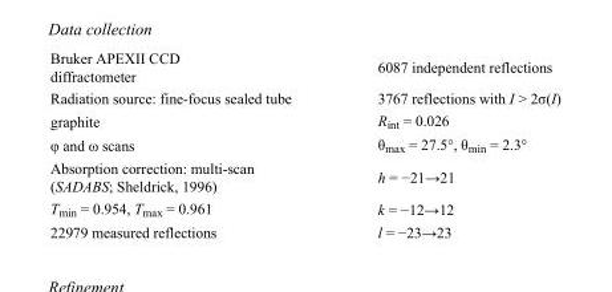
<table><tbody><tr><td>Bruker APEXII CCD diffractometer</td><td>6087 independent reflections</td></tr><tr><td>Radiation source: fine-focus sealed tube</td><td>3767 reflections with I &gt; 2σ(I)</td></tr><tr><td>graphite</td><td>R<sub>int</sub> = 0.026</td></tr><tr><td>φ and ω scans</td><td>θ<sub>max</sub> = 27.5°, θ<sub>min</sub> = 2.3°</td></tr><tr><td>Absorption correction: multi-scan (SADABS; Sheldrick, 1996)</td><td>h = −21→21</td></tr><tr><td>T<sub>min</sub> = 0.954, T<sub>max</sub> = 0.961</td><td>k = −12→12</td></tr><tr><td>22979 measured reflections</td><td>l = −23→23</td></tr></tbody></table>